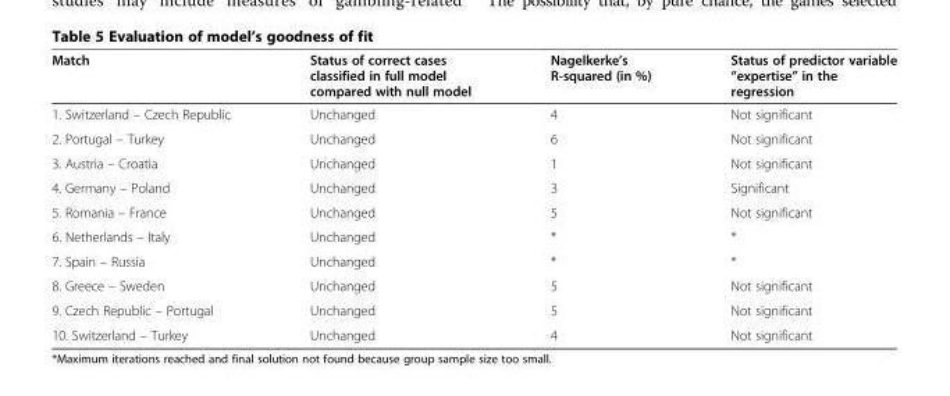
<table><thead><tr><td>Match</td><td>Status of correct cases classified in full model compared with null model</td><td>Nagelkerke’s R-squared (in %)</td><td>Status of predictor variable “expertise” in the regression</td></tr></thead><tbody><tr><td>1. Switzerland – Czech Republic</td><td>Unchanged</td><td>4</td><td>Not significant</td></tr><tr><td>2. Portugal – Turkey</td><td>Unchanged</td><td>6</td><td>Not significant</td></tr><tr><td>3. Austria – Croatia</td><td>Unchanged</td><td>1</td><td>Not significant</td></tr><tr><td>4. Germany – Poland</td><td>Unchanged</td><td>3</td><td>Significant</td></tr><tr><td>5. Romania – France</td><td>Unchanged</td><td>5</td><td>Not significant</td></tr><tr><td>6. Netherlands – Italy</td><td>Unchanged</td><td>*</td><td>*</td></tr><tr><td>7. Spain – Russia</td><td>Unchanged</td><td>*</td><td>*</td></tr><tr><td>8. Greece – Sweden</td><td>Unchanged</td><td>5</td><td>Not significant</td></tr><tr><td>9. Czech Republic – Portugal</td><td>Unchanged</td><td>5</td><td>Not significant</td></tr><tr><td>10. Switzerland – Turkey</td><td>Unchanged</td><td>4</td><td>Not significant</td></tr></tbody></table>